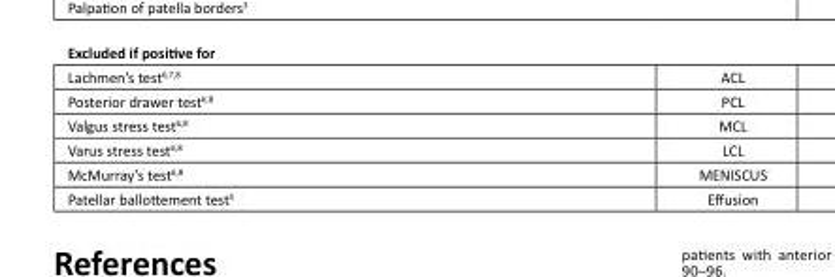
<table><tbody><tr><td>Lachmen’s test<sup>6,7,8</sup></td><td>ACL</td></tr><tr><td>Posterior drawer test<sup>6,8</sup></td><td>PCL</td></tr><tr><td>Valgus stress test<sup>6,8</sup></td><td>MCL</td></tr><tr><td>Varus stress test<sup>6,8</sup></td><td>LCL</td></tr><tr><td>McMurray’s test<sup>6,8</sup></td><td>MENISCUS</td></tr><tr><td>Patellar ballottement test<sup>5</sup></td><td>Effusion</td></tr></tbody></table>